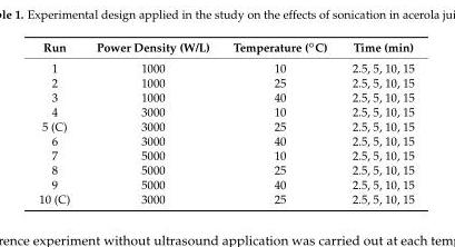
<table><thead><tr><td>Run</td><td>Power Density (W/L)</td><td>Temperature (◦C)</td><td>Time (min)</td></tr></thead><tbody><tr><td>1</td><td>1000</td><td>10</td><td>2.5, 5, 10, 15</td></tr><tr><td>2</td><td>1000</td><td>25</td><td>2.5, 5, 10, 15</td></tr><tr><td>3</td><td>1000</td><td>40</td><td>2.5, 5, 10, 15</td></tr><tr><td>4</td><td>3000</td><td>10</td><td>2.5, 5, 10, 15</td></tr><tr><td>5 (C)</td><td>3000</td><td>25</td><td>2.5, 5, 10, 15</td></tr><tr><td>6</td><td>3000</td><td>40</td><td>2.5, 5, 10, 15</td></tr><tr><td>7</td><td>5000</td><td>10</td><td>2.5, 5, 10, 15</td></tr><tr><td>8</td><td>5000</td><td>25</td><td>2.5, 5, 10, 15</td></tr><tr><td>9</td><td>5000</td><td>40</td><td>2.5, 5, 10, 15</td></tr><tr><td>10 (C)</td><td>3000</td><td>25</td><td>2.5, 5, 10, 15</td></tr></tbody></table>